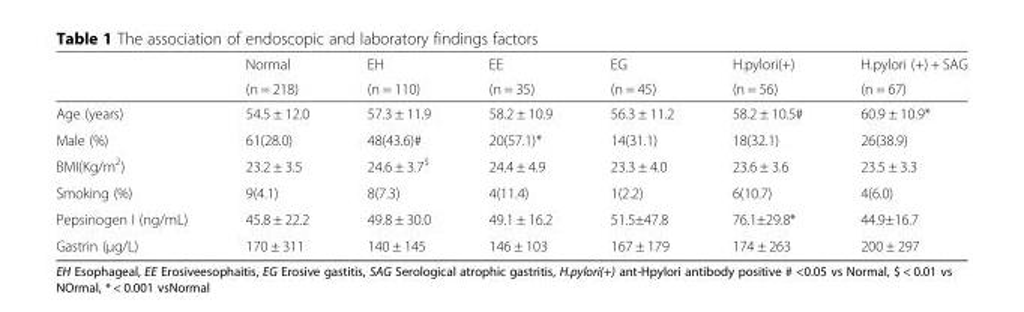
<table><thead><tr><td rowspan="2"></td><td rowspan="2">Normal (n = 218)</td><td rowspan="2">EH (n = 110)</td><td rowspan="2">EE (n = 35)</td><td rowspan="2">EG (n = 45)</td><td rowspan="2">H.pylori(+) (n = 56)</td><td rowspan="2">H.pylori (+) + SAG (n = 67)</td></tr><tr></tr></thead><tbody><tr><td>Age (years)</td><td>54.5 ± 12.0</td><td>57.3 ± 11.9</td><td>58.2 ± 10.9</td><td>56.3 ± 11.2</td><td>58.2 ± 10.5#</td><td>60.9 ± 10.9*</td></tr><tr><td>Male (%)</td><td>61(28.0)</td><td>48(43.6)#</td><td>20(57.1)*</td><td>14(31.1)</td><td>18(32.1)</td><td>26(38.9)</td></tr><tr><td>BMI(Kg/m<sup>2</sup>)</td><td>23.2 ± 3.5</td><td>24.6 ± 3.7<sup>$</sup></td><td>24.4 ± 4.9</td><td>23.3 ± 4.0</td><td>23.6 ± 3.6</td><td>23.5 ± 3.3</td></tr><tr><td>Smoking (%)</td><td>9(4.1)</td><td>8(7.3)</td><td>4(11.4)</td><td>1(2.2)</td><td>6(10.7)</td><td>4(6.0)</td></tr><tr><td>Pepsinogen Ι (ng/mL)</td><td>45.8 ± 22.2</td><td>49.8 ± 30.0</td><td>49.1 ± 16.2</td><td>51.5±47.8</td><td>76.1±29.8*</td><td>44.9±16.7</td></tr><tr><td>Gastrin (μg/L)</td><td>170 ± 311</td><td>140 ± 145</td><td>146 ± 103</td><td>167 ± 179</td><td>174 ± 263</td><td>200 ± 297</td></tr></tbody></table>